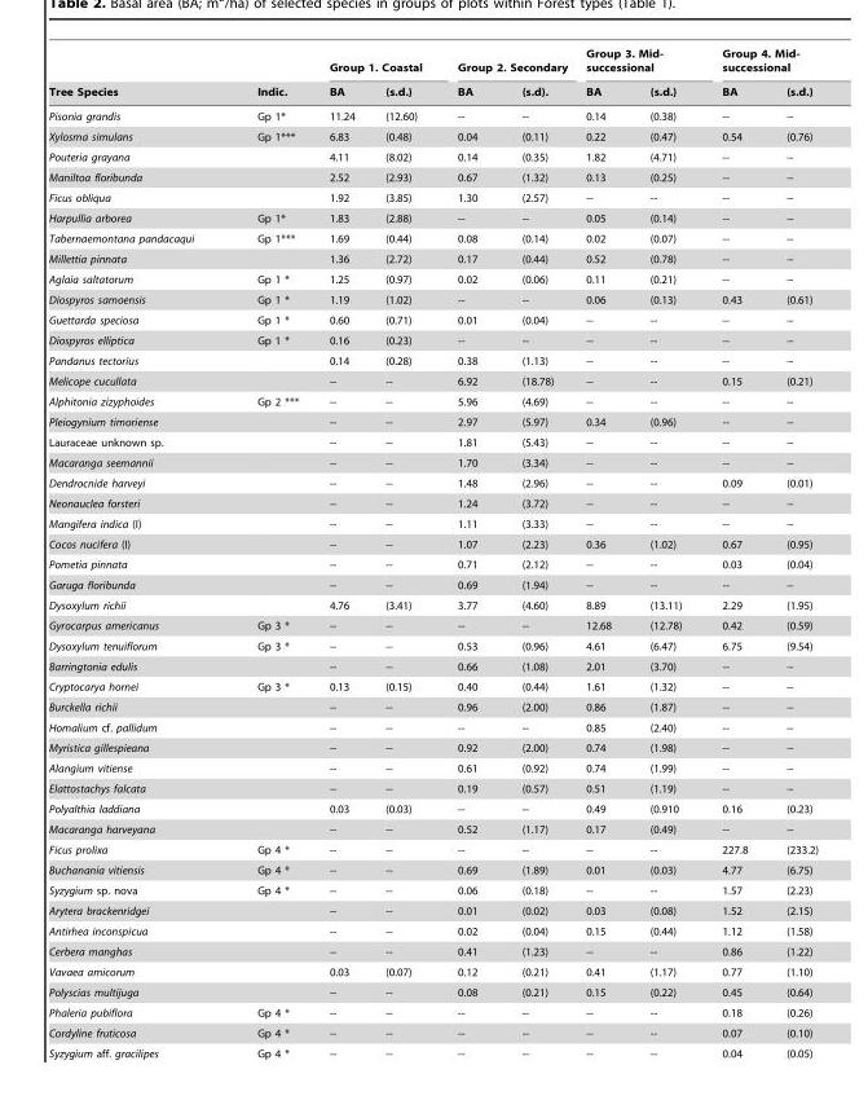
<table><thead><tr><td rowspan="2">Tree Species</td><td rowspan="2">Indic.</td><td colspan="2">Group 1. Coastal</td><td colspan="2">Group 2. Secondary</td><td colspan="2">Group 3. Mid- successional</td><td colspan="2">Group 4. Mid- successional</td></tr><tr><td>BA</td><td>(s.d.)</td><td>BA</td><td>(s.d).</td><td>BA</td><td>(s.d.)</td><td>BA</td><td>(s.d.)</td></tr></thead><tbody><tr><td>Pisonia grandis</td><td>Gp 1*</td><td>11.24</td><td>(12.60)</td><td>--</td><td>--</td><td>0.14</td><td>(0.38)</td><td>--</td><td>--</td></tr><tr><td>Xylosma simulans</td><td>Gp 1***</td><td>6.83</td><td>(0.48)</td><td>0.04</td><td>(0.11)</td><td>0.22</td><td>(0.47)</td><td>0.54</td><td>(0.76)</td></tr><tr><td>Pouteria grayana</td><td></td><td>4.11</td><td>(8.02)</td><td>0.14</td><td>(0.35)</td><td>1.82</td><td>(4.71)</td><td>--</td><td>--</td></tr><tr><td>Maniltoa floribunda</td><td></td><td>2.52</td><td>(2.93)</td><td>0.67</td><td>(1.32)</td><td>0.13</td><td>(0.25)</td><td>--</td><td>--</td></tr><tr><td>Ficus obliqua</td><td></td><td>1.92</td><td>(3.85)</td><td>1.30</td><td>(2.57)</td><td>--</td><td>--</td><td>--</td><td>--</td></tr><tr><td>Harpullia arborea</td><td>Gp 1*</td><td>1.83</td><td>(2.88)</td><td>--</td><td>--</td><td>0.05</td><td>(0.14)</td><td>--</td><td>--</td></tr><tr><td>Tabernaemontana pandacaqui</td><td>Gp 1***</td><td>1.69</td><td>(0.44)</td><td>0.08</td><td>(0.14)</td><td>0.02</td><td>(0.07)</td><td>--</td><td>--</td></tr><tr><td>Millettia pinnata</td><td></td><td>1.36</td><td>(2.72)</td><td>0.17</td><td>(0.44)</td><td>0.52</td><td>(0.78)</td><td>--</td><td>--</td></tr><tr><td>Aglaia saltatorum</td><td>Gp 1 *</td><td>1.25</td><td>(0.97)</td><td>0.02</td><td>(0.06)</td><td>0.11</td><td>(0.21)</td><td>--</td><td>--</td></tr><tr><td>Diospyros samoensis</td><td>Gp 1 *</td><td>1.19</td><td>(1.02)</td><td>--</td><td>--</td><td>0.06</td><td>(0.13)</td><td>0.43</td><td>(0.61)</td></tr><tr><td>Guettarda speciosa</td><td>Gp 1 *</td><td>0.60</td><td>(0.71)</td><td>0.01</td><td>(0.04)</td><td>--</td><td>--</td><td>--</td><td>--</td></tr><tr><td>Diospyros elliptica</td><td>Gp 1 *</td><td>0.16</td><td>(0.23)</td><td>--</td><td>--</td><td>--</td><td>--</td><td>--</td><td>--</td></tr><tr><td>Pandanus tectorius</td><td></td><td>0.14</td><td>(0.28)</td><td>0.38</td><td>(1.13)</td><td>--</td><td>--</td><td>--</td><td>--</td></tr><tr><td>Melicope cucullata</td><td></td><td>--</td><td>--</td><td>6.92</td><td>(18.78)</td><td>--</td><td>--</td><td>0.15</td><td>(0.21)</td></tr><tr><td>Alphitonia zizyphoides</td><td>Gp 2 ***</td><td>--</td><td>--</td><td>5.96</td><td>(4.69)</td><td>--</td><td>--</td><td>--</td><td>--</td></tr><tr><td>Pleiogynium timoriense</td><td></td><td>--</td><td>--</td><td>2.97</td><td>(5.97)</td><td>0.34</td><td>(0.96)</td><td>--</td><td>--</td></tr><tr><td>Lauraceae unknown sp.</td><td></td><td>--</td><td>--</td><td>1.81</td><td>(5.43)</td><td>--</td><td>--</td><td>--</td><td>--</td></tr><tr><td>Macaranga seemannii</td><td></td><td>--</td><td>--</td><td>1.70</td><td>(3.34)</td><td>--</td><td>--</td><td>--</td><td>--</td></tr><tr><td>Dendrocnide harveyi</td><td></td><td>--</td><td>--</td><td>1.48</td><td>(2.96)</td><td>--</td><td>--</td><td>0.09</td><td>(0.01)</td></tr><tr><td>Neonauclea forsteri</td><td></td><td>--</td><td>--</td><td>1.24</td><td>(3.72)</td><td>--</td><td>--</td><td>--</td><td>--</td></tr><tr><td>Mangifera indica (I)</td><td></td><td>--</td><td>--</td><td>1.11</td><td>(3.33)</td><td>--</td><td>--</td><td>--</td><td>--</td></tr><tr><td>Cocos nucifera (I)</td><td></td><td>--</td><td>--</td><td>1.07</td><td>(2.23)</td><td>0.36</td><td>(1.02)</td><td>0.67</td><td>(0.95)</td></tr><tr><td>Pometia pinnata</td><td></td><td>--</td><td>--</td><td>0.71</td><td>(2.12)</td><td>--</td><td>--</td><td>0.03</td><td>(0.04)</td></tr><tr><td>Garuga floribunda</td><td></td><td>--</td><td>--</td><td>0.69</td><td>(1.94)</td><td>--</td><td>--</td><td>--</td><td>--</td></tr><tr><td>Dysoxylum richii</td><td></td><td>4.76</td><td>(3.41)</td><td>3.77</td><td>(4.60)</td><td>8.89</td><td>(13.11)</td><td>2.29</td><td>(1.95)</td></tr><tr><td>Gyrocarpus americanus</td><td>Gp 3 *</td><td>--</td><td>--</td><td>--</td><td>--</td><td>12.68</td><td>(12.78)</td><td>0.42</td><td>(0.59)</td></tr><tr><td>Dysoxylum tenuiflorum</td><td>Gp 3 *</td><td>--</td><td>--</td><td>0.53</td><td>(0.96)</td><td>4.61</td><td>(6.47)</td><td>6.75</td><td>(9.54)</td></tr><tr><td>Barringtonia edulis</td><td></td><td>--</td><td>--</td><td>0.66</td><td>(1.08)</td><td>2.01</td><td>(3.70)</td><td>--</td><td>--</td></tr><tr><td>Cryptocarya hornei</td><td>Gp 3 *</td><td>0.13</td><td>(0.15)</td><td>0.40</td><td>(0.44)</td><td>1.61</td><td>(1.32)</td><td>--</td><td>--</td></tr><tr><td>Burckella richii</td><td></td><td>--</td><td>--</td><td>0.96</td><td>(2.00)</td><td>0.86</td><td>(1.87)</td><td>--</td><td>--</td></tr><tr><td>Homalium cf. pallidum</td><td></td><td>--</td><td>--</td><td>--</td><td>--</td><td>0.85</td><td>(2.40)</td><td>--</td><td>--</td></tr><tr><td>Myristica gillespieana</td><td></td><td>--</td><td>--</td><td>0.92</td><td>(2.00)</td><td>0.74</td><td>(1.98)</td><td>--</td><td>--</td></tr><tr><td>Alangium vitiense</td><td></td><td>--</td><td>--</td><td>0.61</td><td>(0.92)</td><td>0.74</td><td>(1.99)</td><td>--</td><td>--</td></tr><tr><td>Elattostachys falcata</td><td></td><td>--</td><td>--</td><td>0.19</td><td>(0.57)</td><td>0.51</td><td>(1.19)</td><td>--</td><td>--</td></tr><tr><td>Polyalthia laddiana</td><td></td><td>0.03</td><td>(0.03)</td><td>--</td><td>--</td><td>0.49</td><td>(0.910</td><td>0.16</td><td>(0.23)</td></tr><tr><td>Macaranga harveyana</td><td></td><td>--</td><td>--</td><td>0.52</td><td>(1.17)</td><td>0.17</td><td>(0.49)</td><td>--</td><td>--</td></tr><tr><td>Ficus prolixa</td><td>Gp 4 *</td><td>--</td><td>--</td><td>--</td><td>--</td><td>--</td><td>--</td><td>227.8</td><td>(233.2)</td></tr><tr><td>Buchanania vitiensis</td><td>Gp 4 *</td><td>--</td><td>--</td><td>0.69</td><td>(1.89)</td><td>0.01</td><td>(0.03)</td><td>4.77</td><td>(6.75)</td></tr><tr><td>Syzygium sp. nova</td><td>Gp 4 *</td><td>--</td><td>--</td><td>0.06</td><td>(0.18)</td><td>--</td><td>--</td><td>1.57</td><td>(2.23)</td></tr><tr><td>Arytera brackenridgei</td><td></td><td>--</td><td>--</td><td>0.01</td><td>(0.02)</td><td>0.03</td><td>(0.08)</td><td>1.52</td><td>(2.15)</td></tr><tr><td>Antirhea inconspicua</td><td></td><td>--</td><td>--</td><td>0.02</td><td>(0.04)</td><td>0.15</td><td>(0.44)</td><td>1.12</td><td>(1.58)</td></tr><tr><td>Cerbera manghas</td><td></td><td>--</td><td>--</td><td>0.41</td><td>(1.23)</td><td>--</td><td>--</td><td>0.86</td><td>(1.22)</td></tr><tr><td>Vavaea amicorum</td><td></td><td>0.03</td><td>(0.07)</td><td>0.12</td><td>(0.21)</td><td>0.41</td><td>(1.17)</td><td>0.77</td><td>(1.10)</td></tr><tr><td>Polyscias multijuga</td><td></td><td>--</td><td>--</td><td>0.08</td><td>(0.21)</td><td>0.15</td><td>(0.22)</td><td>0.45</td><td>(0.64)</td></tr><tr><td>Phaleria pubiflora</td><td>Gp 4 *</td><td>--</td><td>--</td><td>--</td><td>--</td><td>--</td><td>--</td><td>0.18</td><td>(0.26)</td></tr><tr><td>Cordyline fruticosa</td><td>Gp 4 *</td><td>--</td><td>--</td><td>--</td><td>--</td><td>--</td><td>--</td><td>0.07</td><td>(0.10)</td></tr><tr><td>Syzygium aff. gracilipes</td><td>Gp 4 *</td><td>--</td><td>--</td><td>--</td><td>--</td><td>--</td><td>--</td><td>0.04</td><td>(0.05)</td></tr></tbody></table>